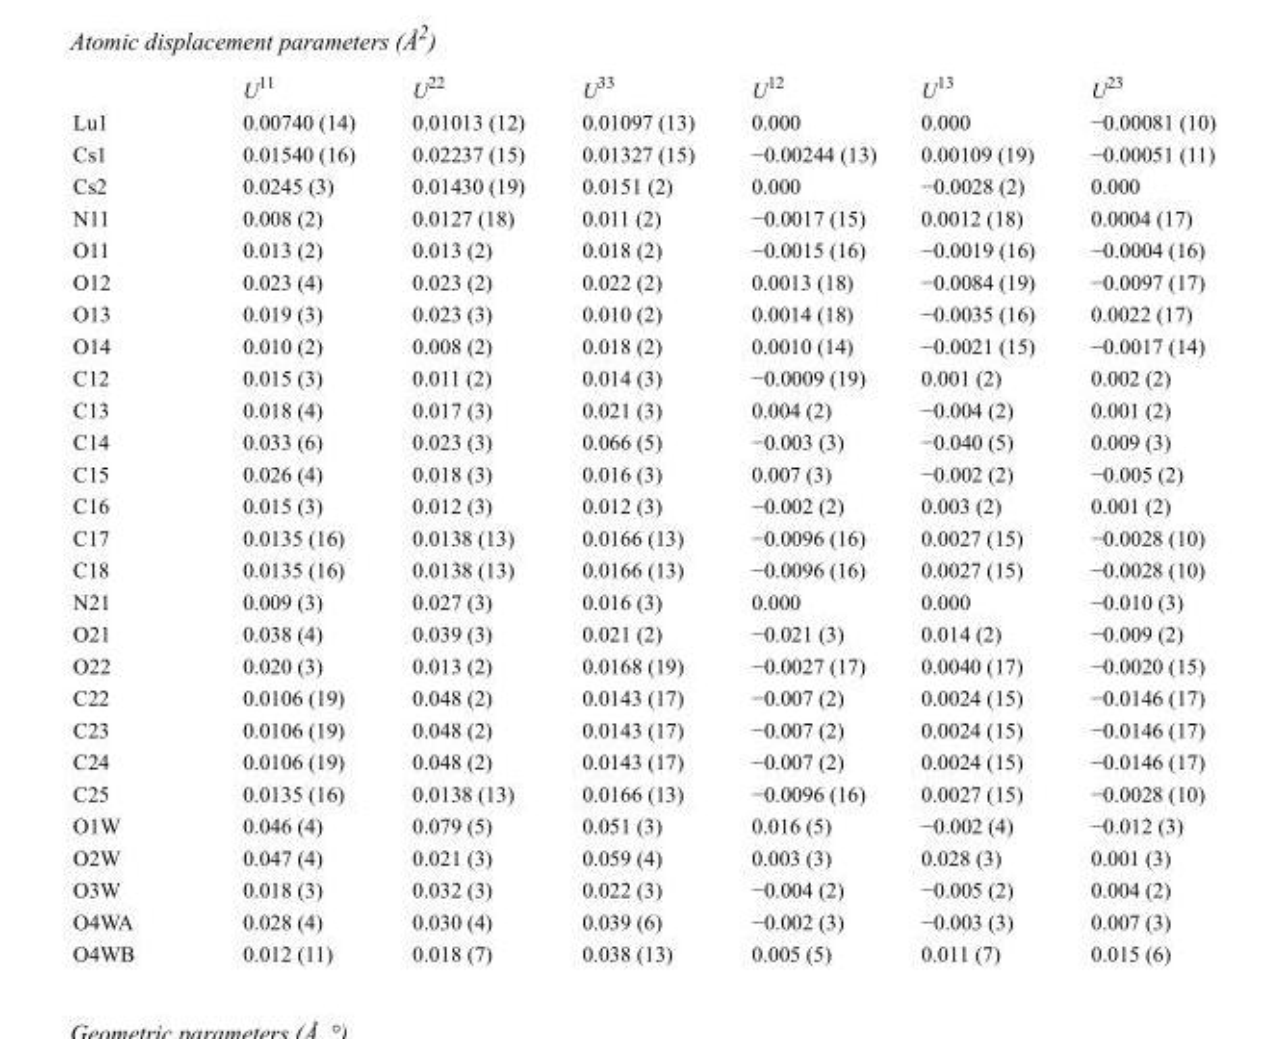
<table><thead><tr><td></td><td>U<sup>11</sup></td><td>U<sup>22</sup></td><td>U<sup>33</sup></td><td>U<sup>12</sup></td><td>U<sup>13</sup></td><td>U<sup>23</sup></td></tr></thead><tbody><tr><td>Lu1</td><td>0.00740 (14)</td><td>0.01013 (12)</td><td>0.01097 (13)</td><td>0.000</td><td>0.000</td><td>−0.00081 (10)</td></tr><tr><td>Cs1</td><td>0.01540 (16)</td><td>0.02237 (15)</td><td>0.01327 (15)</td><td>−0.00244 (13)</td><td>0.00109 (19)</td><td>−0.00051 (11)</td></tr><tr><td>Cs2</td><td>0.0245 (3)</td><td>0.01430 (19)</td><td>0.0151 (2)</td><td>0.000</td><td>−0.0028 (2)</td><td>0.000</td></tr><tr><td>N11</td><td>0.008 (2)</td><td>0.0127 (18)</td><td>0.011 (2)</td><td>−0.0017 (15)</td><td>0.0012 (18)</td><td>0.0004 (17)</td></tr><tr><td>O11</td><td>0.013 (2)</td><td>0.013 (2)</td><td>0.018 (2)</td><td>−0.0015 (16)</td><td>−0.0019 (16)</td><td>−0.0004 (16)</td></tr><tr><td>O12</td><td>0.023 (4)</td><td>0.023 (2)</td><td>0.022 (2)</td><td>0.0013 (18)</td><td>−0.0084 (19)</td><td>−0.0097 (17)</td></tr><tr><td>O13</td><td>0.019 (3)</td><td>0.023 (3)</td><td>0.010 (2)</td><td>0.0014 (18)</td><td>−0.0035 (16)</td><td>0.0022 (17)</td></tr><tr><td>O14</td><td>0.010 (2)</td><td>0.008 (2)</td><td>0.018 (2)</td><td>0.0010 (14)</td><td>−0.0021 (15)</td><td>−0.0017 (14)</td></tr><tr><td>C12</td><td>0.015 (3)</td><td>0.011 (2)</td><td>0.014 (3)</td><td>−0.0009 (19)</td><td>0.001 (2)</td><td>0.002 (2)</td></tr><tr><td>C13</td><td>0.018 (4)</td><td>0.017 (3)</td><td>0.021 (3)</td><td>0.004 (2)</td><td>−0.004 (2)</td><td>0.001 (2)</td></tr><tr><td>C14</td><td>0.033 (6)</td><td>0.023 (3)</td><td>0.066 (5)</td><td>−0.003 (3)</td><td>−0.040 (5)</td><td>0.009 (3)</td></tr><tr><td>C15</td><td>0.026 (4)</td><td>0.018 (3)</td><td>0.016 (3)</td><td>0.007 (3)</td><td>−0.002 (2)</td><td>−0.005 (2)</td></tr><tr><td>C16</td><td>0.015 (3)</td><td>0.012 (3)</td><td>0.012 (3)</td><td>−0.002 (2)</td><td>0.003 (2)</td><td>0.001 (2)</td></tr><tr><td>C17</td><td>0.0135 (16)</td><td>0.0138 (13)</td><td>0.0166 (13)</td><td>−0.0096 (16)</td><td>0.0027 (15)</td><td>−0.0028 (10)</td></tr><tr><td>C18</td><td>0.0135 (16)</td><td>0.0138 (13)</td><td>0.0166 (13)</td><td>−0.0096 (16)</td><td>0.0027 (15)</td><td>−0.0028 (10)</td></tr><tr><td>N21</td><td>0.009 (3)</td><td>0.027 (3)</td><td>0.016 (3)</td><td>0.000</td><td>0.000</td><td>−0.010 (3)</td></tr><tr><td>O21</td><td>0.038 (4)</td><td>0.039 (3)</td><td>0.021 (2)</td><td>−0.021 (3)</td><td>0.014 (2)</td><td>−0.009 (2)</td></tr><tr><td>O22</td><td>0.020 (3)</td><td>0.013 (2)</td><td>0.0168 (19)</td><td>−0.0027 (17)</td><td>0.0040 (17)</td><td>−0.0020 (15)</td></tr><tr><td>C22</td><td>0.0106 (19)</td><td>0.048 (2)</td><td>0.0143 (17)</td><td>−0.007 (2)</td><td>0.0024 (15)</td><td>−0.0146 (17)</td></tr><tr><td>C23</td><td>0.0106 (19)</td><td>0.048 (2)</td><td>0.0143 (17)</td><td>−0.007 (2)</td><td>0.0024 (15)</td><td>−0.0146 (17)</td></tr><tr><td>C24</td><td>0.0106 (19)</td><td>0.048 (2)</td><td>0.0143 (17)</td><td>−0.007 (2)</td><td>0.0024 (15)</td><td>−0.0146 (17)</td></tr><tr><td>C25</td><td>0.0135 (16)</td><td>0.0138 (13)</td><td>0.0166 (13)</td><td>−0.0096 (16)</td><td>0.0027 (15)</td><td>−0.0028 (10)</td></tr><tr><td>O1W</td><td>0.046 (4)</td><td>0.079 (5)</td><td>0.051 (3)</td><td>0.016 (5)</td><td>−0.002 (4)</td><td>−0.012 (3)</td></tr><tr><td>O2W</td><td>0.047 (4)</td><td>0.021 (3)</td><td>0.059 (4)</td><td>0.003 (3)</td><td>0.028 (3)</td><td>0.001 (3)</td></tr><tr><td>O3W</td><td>0.018 (3)</td><td>0.032 (3)</td><td>0.022 (3)</td><td>−0.004 (2)</td><td>−0.005 (2)</td><td>0.004 (2)</td></tr><tr><td>O4WA</td><td>0.028 (4)</td><td>0.030 (4)</td><td>0.039 (6)</td><td>−0.002 (3)</td><td>−0.003 (3)</td><td>0.007 (3)</td></tr><tr><td>O4WB</td><td>0.012 (11)</td><td>0.018 (7)</td><td>0.038 (13)</td><td>0.005 (5)</td><td>0.011 (7)</td><td>0.015 (6)</td></tr></tbody></table>